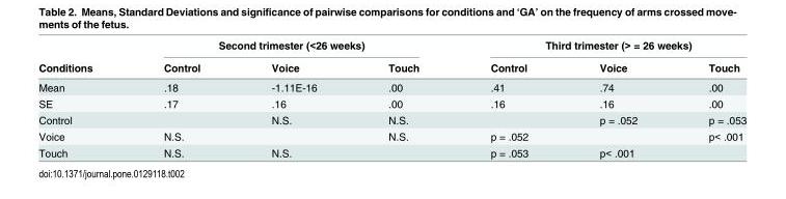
<table><thead><tr><td rowspan="2">Conditions</td><td colspan="3">Second trimester (&lt;26 weeks)</td><td colspan="3">Third trimester (&gt; = 26 weeks)</td></tr><tr><td>Control</td><td>Voice</td><td>Touch</td><td>Control</td><td>Voice</td><td>Touch</td></tr></thead><tbody><tr><td>Mean</td><td>.18</td><td>-1.11E-16</td><td>.00</td><td>.41</td><td>.74</td><td>.00</td></tr><tr><td>SE</td><td>.17</td><td>.16</td><td>.00</td><td>.16</td><td>.16</td><td>.00</td></tr><tr><td>Control</td><td></td><td>N.S.</td><td>N.S.</td><td></td><td>p = .052</td><td>p = .053</td></tr><tr><td>Voice</td><td>N.S.</td><td></td><td>N.S.</td><td>p = .052</td><td></td><td>p&lt; .001</td></tr><tr><td>Touch</td><td>N.S.</td><td>N.S.</td><td></td><td>p = .053</td><td>p&lt; .001</td><td></td></tr></tbody></table>